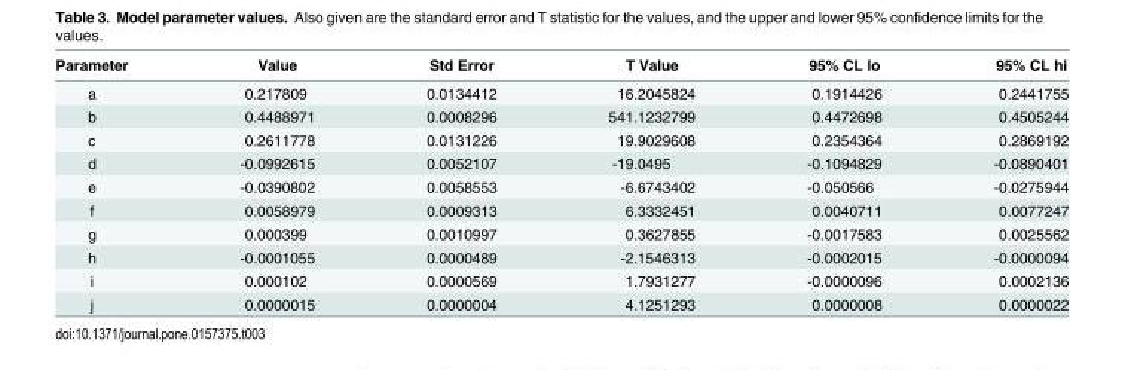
<table><thead><tr><td>Parameter</td><td>Value</td><td>Std Error</td><td>T Value</td><td>95% CL lo</td><td>95% CL hi</td></tr></thead><tbody><tr><td>a</td><td>0.217809</td><td>0.0134412</td><td>16.2045824</td><td>0.1914426</td><td>0.2441755</td></tr><tr><td>b</td><td>0.4488971</td><td>0.0008296</td><td>541.1232799</td><td>0.4472698</td><td>0.4505244</td></tr><tr><td>c</td><td>0.2611778</td><td>0.0131226</td><td>19.9029608</td><td>0.2354364</td><td>0.2869192</td></tr><tr><td>d</td><td>-0.0992615</td><td>0.0052107</td><td>-19.0495</td><td>-0.1094829</td><td>-0.0890401</td></tr><tr><td>e</td><td>-0.0390802</td><td>0.0058553</td><td>-6.6743402</td><td>-0.050566</td><td>-0.0275944</td></tr><tr><td>f</td><td>0.0058979</td><td>0.0009313</td><td>6.3332451</td><td>0.0040711</td><td>0.0077247</td></tr><tr><td>g</td><td>0.000399</td><td>0.0010997</td><td>0.3627855</td><td>-0.0017583</td><td>0.0025562</td></tr><tr><td>h</td><td>-0.0001055</td><td>0.0000489</td><td>-2.1546313</td><td>-0.0002015</td><td>-0.0000094</td></tr><tr><td>i</td><td>0.000102</td><td>0.0000569</td><td>1.7931277</td><td>-0.0000096</td><td>0.0002136</td></tr><tr><td>j</td><td>0.0000015</td><td>0.0000004</td><td>4.1251293</td><td>0.0000008</td><td>0.0000022</td></tr></tbody></table>